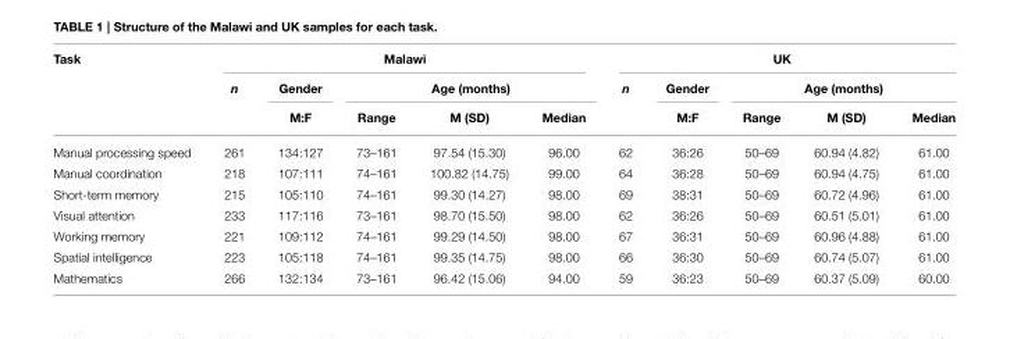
<table><thead><tr><td rowspan="3">Task</td><td colspan="5">Malawi</td><td colspan="5">UK</td></tr><tr><td rowspan="2">n</td><td rowspan="2">Gender M:F</td><td colspan="3">Age (months)</td><td rowspan="2">n</td><td rowspan="2">Gender M:F</td><td colspan="3">Age (months)</td></tr><tr><td>Range</td><td>M (SD)</td><td>Median</td><td>Range</td><td>M (SD)</td><td>Median</td></tr></thead><tbody><tr><td>Manual processing speed</td><td>261</td><td>134:127</td><td>73–161</td><td>97.54 (15.30)</td><td>96.00</td><td>62</td><td>36:26</td><td>50–69</td><td>60.94 (4.82)</td><td>61.00</td></tr><tr><td>Manual coordination</td><td>218</td><td>107:111</td><td>74–161</td><td>100.82 (14.75)</td><td>99.00</td><td>64</td><td>36:28</td><td>50–69</td><td>60.94 (4.75)</td><td>61.00</td></tr><tr><td>Short-term memory</td><td>215</td><td>105:110</td><td>74–161</td><td>99.30 (14.27)</td><td>98.00</td><td>69</td><td>38:31</td><td>50–69</td><td>60.72 (4.96)</td><td>61.00</td></tr><tr><td>Visual attention</td><td>233</td><td>117:116</td><td>73–161</td><td>98.70 (15.50)</td><td>98.00</td><td>62</td><td>36:26</td><td>50–69</td><td>60.51 (5.01)</td><td>61.00</td></tr><tr><td>Working memory</td><td>221</td><td>109:112</td><td>74–161</td><td>99.29 (14.50)</td><td>98.00</td><td>67</td><td>36:31</td><td>50–69</td><td>60.96 (4.88)</td><td>61.00</td></tr><tr><td>Spatial intelligence</td><td>223</td><td>105:118</td><td>74–161</td><td>99.35 (14.75)</td><td>98.00</td><td>66</td><td>36:30</td><td>50–69</td><td>60.74 (5.07)</td><td>61.00</td></tr><tr><td>Mathematics</td><td>266</td><td>132:134</td><td>73–161</td><td>96.42 (15.06)</td><td>94.00</td><td>59</td><td>36:23</td><td>50–69</td><td>60.37 (5.09)</td><td>60.00</td></tr></tbody></table>